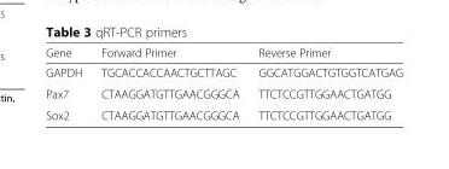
<table><thead><tr><td>Gene</td><td>Forward Primer</td><td>Reverse Primer</td></tr></thead><tbody><tr><td>GAPDH</td><td>TGCACCACCAACTGCTTAGC</td><td>GGCATGGACTGTGGTCATGAG</td></tr><tr><td>Pax7</td><td>CTAAGGATGTTGAACGGGCA</td><td>TTCTCCGTTGGAACTGATGG</td></tr><tr><td>Sox2</td><td>CTAAGGATGTTGAACGGGCA</td><td>TTCTCCGTTGGAACTGATGG</td></tr></tbody></table>